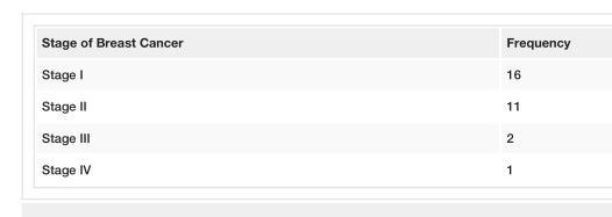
<table><tbody><tr><td>Stage of Breast Cancer</td><td>Frequency</td></tr><tr><td>Stage I</td><td>16</td></tr><tr><td>Stage II</td><td>11</td></tr><tr><td>Stage III</td><td>2</td></tr><tr><td>Stage IV</td><td>1</td></tr></tbody></table>